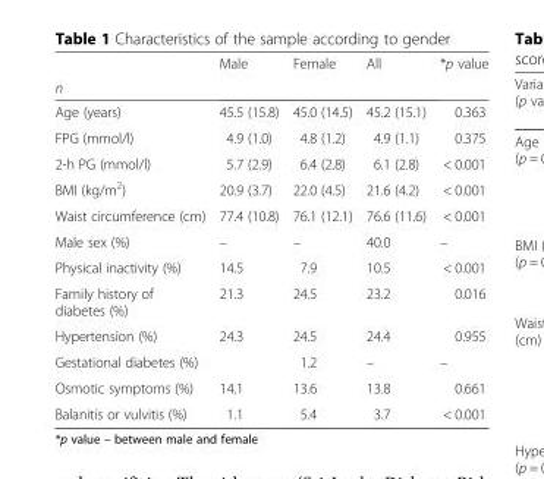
<table><thead><tr><td rowspan="2">n</td><td rowspan="2">Male</td><td rowspan="2">Female</td><td rowspan="2">All</td><td rowspan="2">*p value</td></tr><tr></tr></thead><tbody><tr><td>Age (years)</td><td>45.5 (15.8)</td><td>45.0 (14.5)</td><td>45.2 (15.1)</td><td>0.363</td></tr><tr><td>FPG (mmol/l)</td><td>4.9 (1.0)</td><td>4.8 (1.2)</td><td>4.9 (1.1)</td><td>0.375</td></tr><tr><td>2-h PG (mmol/l)</td><td>5.7 (2.9)</td><td>6.4 (2.8)</td><td>6.1 (2.8)</td><td>&lt; 0.001</td></tr><tr><td>BMI (kg/m<sup>2</sup>)</td><td>20.9 (3.7)</td><td>22.0 (4.5)</td><td>21.6 (4.2)</td><td>&lt; 0.001</td></tr><tr><td>Waist circumference (cm)</td><td>77.4 (10.8)</td><td>76.1 (12.1)</td><td>76.6 (11.6)</td><td>&lt; 0.001</td></tr><tr><td>Male sex (%)</td><td>–</td><td>–</td><td>40.0</td><td>–</td></tr><tr><td>Physical inactivity (%)</td><td>14.5</td><td>7.9</td><td>10.5</td><td>&lt; 0.001</td></tr><tr><td>Family history of diabetes (%)</td><td>21.3</td><td>24.5</td><td>23.2</td><td>0.016</td></tr><tr><td>Hypertension (%)</td><td>24.3</td><td>24.5</td><td>24.4</td><td>0.955</td></tr><tr><td>Gestational diabetes (%)</td><td></td><td>1.2</td><td>–</td><td>–</td></tr><tr><td>Osmotic symptoms (%)</td><td>14.1</td><td>13.6</td><td>13.8</td><td>0.661</td></tr><tr><td>Balanitis or vulvitis (%)</td><td>1.1</td><td>5.4</td><td>3.7</td><td>&lt; 0.001</td></tr></tbody></table>